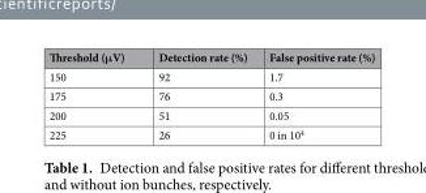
<table><thead><tr><td>Threshold (μV)</td><td>Detection rate (%)</td><td>False positive rate (%)</td></tr></thead><tbody><tr><td>150</td><td>92</td><td>1.7</td></tr><tr><td>175</td><td>76</td><td>0.3</td></tr><tr><td>200</td><td>51</td><td>0.05</td></tr><tr><td>225</td><td>26</td><td>0 in 10<sup>4</sup></td></tr></tbody></table>